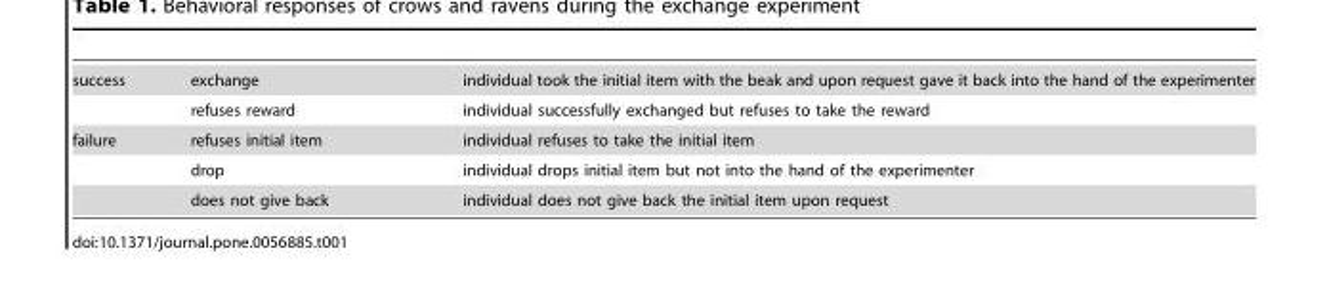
<table><tbody><tr><td rowspan="2">success</td><td>exchange</td><td>individual took the initial item with the beak and upon request gave it back into the hand of the experimenter</td></tr><tr><td>refuses reward</td><td>individual successfully exchanged but refuses to take the reward</td></tr><tr><td rowspan="3">failure</td><td>refuses initial item</td><td>individual refuses to take the initial item</td></tr><tr><td>drop</td><td>individual drops initial item but not into the hand of the experimenter</td></tr><tr><td>does not give back</td><td>individual does not give back the initial item upon request</td></tr></tbody></table>